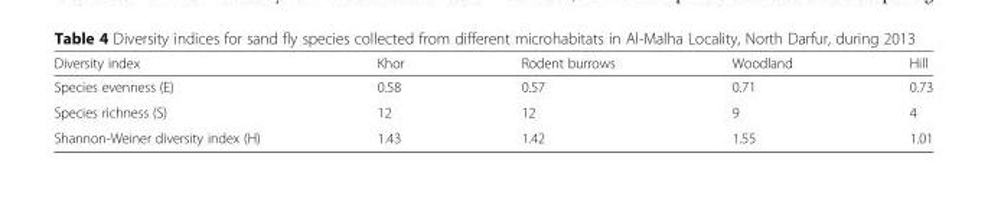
<table><thead><tr><td>Diversity index</td><td>Khor</td><td>Rodent burrows</td><td>Woodland</td><td>Hill</td></tr></thead><tbody><tr><td>Species evenness (E)</td><td>0.58</td><td>0.57</td><td>0.71</td><td>0.73</td></tr><tr><td>Species richness (S)</td><td>12</td><td>12</td><td>9</td><td>4</td></tr><tr><td>Shannon-Weiner diversity index (H)</td><td>1.43</td><td>1.42</td><td>1.55</td><td>1.01</td></tr></tbody></table>